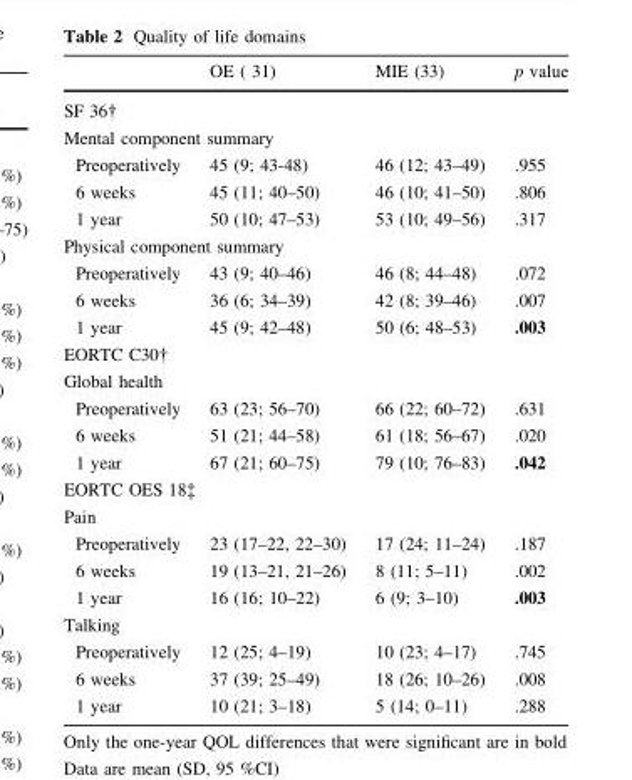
<table><thead><tr><td></td><td>OE ( 31)</td><td>MIE (33)</td><td>p value</td></tr></thead><tbody><tr><td colspan="4">SF 36†</td></tr><tr><td colspan="4">Mental component summary</td></tr><tr><td>Preoperatively</td><td>45 (9; 43-48)</td><td>46 (12; 43–49)</td><td>.955</td></tr><tr><td>6 weeks</td><td>45 (11; 40–50)</td><td>46 (10; 41–50)</td><td>.806</td></tr><tr><td>1 year</td><td>50 (10; 47–53)</td><td>53 (10; 49–56)</td><td>.317</td></tr><tr><td colspan="4">Physical component summary</td></tr><tr><td>Preoperatively</td><td>43 (9; 40–46)</td><td>46 (8; 44–48)</td><td>.072</td></tr><tr><td>6 weeks</td><td>36 (6; 34–39)</td><td>42 (8; 39–46)</td><td>.007</td></tr><tr><td>1 year</td><td>45 (9; 42–48)</td><td>50 (6; 48–53)</td><td>.003</td></tr><tr><td colspan="4">EORTC C30†</td></tr><tr><td colspan="4">Global health</td></tr><tr><td>Preoperatively</td><td>63 (23; 56–70)</td><td>66 (22; 60–72)</td><td>.631</td></tr><tr><td>6 weeks</td><td>51 (21; 44–58)</td><td>61 (18; 56–67)</td><td>.020</td></tr><tr><td>1 year</td><td>67 (21; 60–75)</td><td>79 (10; 76–83)</td><td>.042</td></tr><tr><td colspan="4">EORTC OES 18‡</td></tr><tr><td colspan="4">Pain</td></tr><tr><td>Preoperatively</td><td>23 (17–22, 22–30)</td><td>17 (24; 11–24)</td><td>.187</td></tr><tr><td>6 weeks</td><td>19 (13–21, 21–26)</td><td>8 (11; 5–11)</td><td>.002</td></tr><tr><td>1 year</td><td>16 (16; 10–22)</td><td>6 (9; 3–10)</td><td>.003</td></tr><tr><td colspan="4">Talking</td></tr><tr><td>Preoperatively</td><td>12 (25; 4–19)</td><td>10 (23; 4–17)</td><td>.745</td></tr><tr><td>6 weeks</td><td>37 (39; 25–49)</td><td>18 (26; 10–26)</td><td>.008</td></tr><tr><td>1 year</td><td>10 (21; 3–18)</td><td>5 (14; 0–11)</td><td>.288</td></tr></tbody></table>